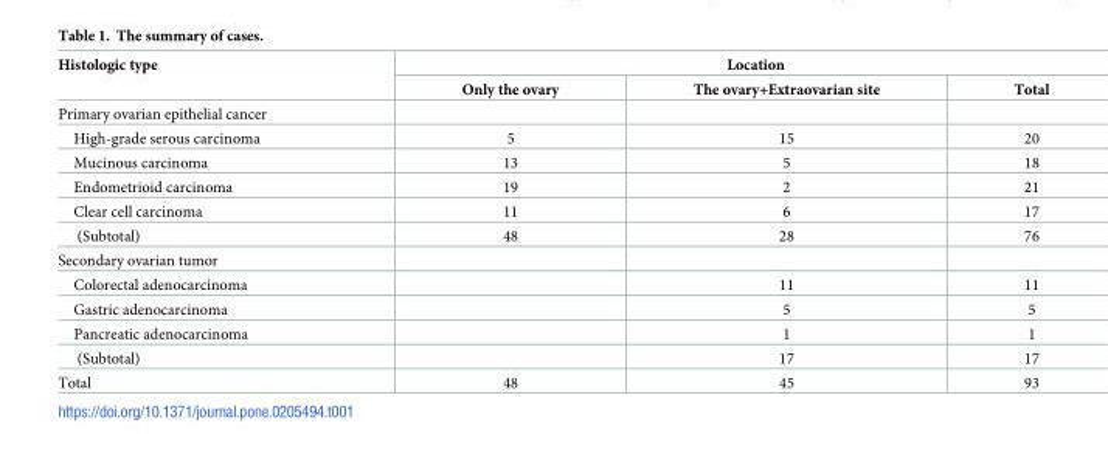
<table><thead><tr><td rowspan="2">Histologic type</td><td colspan="3">Location</td></tr><tr><td>Only the ovary</td><td>The ovary+Extraovarian site</td><td>Total</td></tr></thead><tbody><tr><td colspan="4">Primary ovarian epithelial cancer</td></tr><tr><td>High-grade serous carcinoma</td><td>5</td><td>15</td><td>20</td></tr><tr><td>Mucinous carcinoma</td><td>13</td><td>5</td><td>18</td></tr><tr><td>Endometrioid carcinoma</td><td>19</td><td>2</td><td>21</td></tr><tr><td>Clear cell carcinoma</td><td>11</td><td>6</td><td>17</td></tr><tr><td>(Subtotal)</td><td>48</td><td>28</td><td>76</td></tr><tr><td colspan="4">Secondary ovarian tumor</td></tr><tr><td>Colorectal adenocarcinoma</td><td></td><td>11</td><td>11</td></tr><tr><td>Gastric adenocarcinoma</td><td></td><td>5</td><td>5</td></tr><tr><td>Pancreatic adenocarcinoma</td><td></td><td>1</td><td>1</td></tr><tr><td>(Subtotal)</td><td></td><td>17</td><td>17</td></tr><tr><td>Total</td><td>48</td><td>45</td><td>93</td></tr></tbody></table>